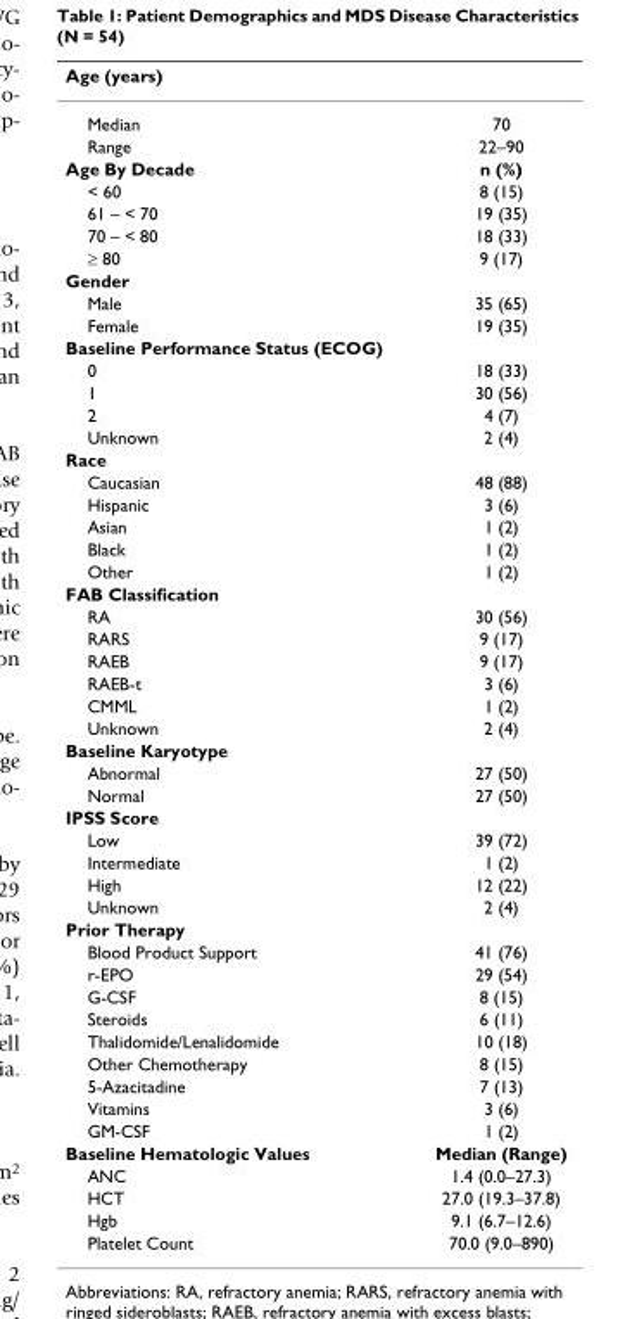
<table><thead><tr><td>Age (years)</td><td></td></tr></thead><tbody><tr><td>Median</td><td>70</td></tr><tr><td>Range</td><td>22–90</td></tr><tr><td>Age By Decade</td><td>n (%)</td></tr><tr><td>&lt; 60</td><td>8 (15)</td></tr><tr><td>61 – &lt; 70</td><td>19 (35)</td></tr><tr><td>70 – &lt; 80</td><td>18 (33)</td></tr><tr><td>≥ 80</td><td>9 (17)</td></tr><tr><td colspan="2">Gender</td></tr><tr><td>Male</td><td>35 (65)</td></tr><tr><td>Female</td><td>19 (35)</td></tr><tr><td colspan="2">Baseline Performance Status (ECOG)</td></tr><tr><td>0</td><td>18 (33)</td></tr><tr><td>1</td><td>30 (56)</td></tr><tr><td>2</td><td>4 (7)</td></tr><tr><td>Unknown</td><td>2 (4)</td></tr><tr><td colspan="2">Race</td></tr><tr><td>Caucasian</td><td>48 (88)</td></tr><tr><td>Hispanic</td><td>3 (6)</td></tr><tr><td>Asian</td><td>1 (2)</td></tr><tr><td>Black</td><td>1 (2)</td></tr><tr><td>Other</td><td>1 (2)</td></tr><tr><td colspan="2">FAB Classification</td></tr><tr><td>RA</td><td>30 (56)</td></tr><tr><td>RARS</td><td>9 (17)</td></tr><tr><td>RAEB</td><td>9 (17)</td></tr><tr><td>RAEB-t</td><td>3 (6)</td></tr><tr><td>CMML</td><td>1 (2)</td></tr><tr><td>Unknown</td><td>2 (4)</td></tr><tr><td colspan="2">Baseline Karyotype</td></tr><tr><td>Abnormal</td><td>27 (50)</td></tr><tr><td>Normal</td><td>27 (50)</td></tr><tr><td colspan="2">IPSS Score</td></tr><tr><td>Low</td><td>39 (72)</td></tr><tr><td>Intermediate</td><td>1 (2)</td></tr><tr><td>High</td><td>12 (22)</td></tr><tr><td>Unknown</td><td>2 (4)</td></tr><tr><td colspan="2">Prior Therapy</td></tr><tr><td>Blood Product Support</td><td>41 (76)</td></tr><tr><td>r-EPO</td><td>29 (54)</td></tr><tr><td>G-CSF</td><td>8 (15)</td></tr><tr><td>Steroids</td><td>6 (11)</td></tr><tr><td>Thalidomide/Lenalidomide</td><td>10 (18)</td></tr><tr><td>Other Chemotherapy</td><td>8 (15)</td></tr><tr><td>5-Azacitadine</td><td>7 (13)</td></tr><tr><td>Vitamins</td><td>3 (6)</td></tr><tr><td>GM-CSF</td><td>1 (2)</td></tr><tr><td>Baseline Hematologic Values</td><td>Median (Range)</td></tr><tr><td>ANC</td><td>1.4 (0.0–27.3)</td></tr><tr><td>HCT</td><td>27.0 (19.3–37.8)</td></tr><tr><td>Hgb</td><td>9.1 (6.7–12.6)</td></tr><tr><td>Platelet Count</td><td>70.0 (9.0–890)</td></tr></tbody></table>